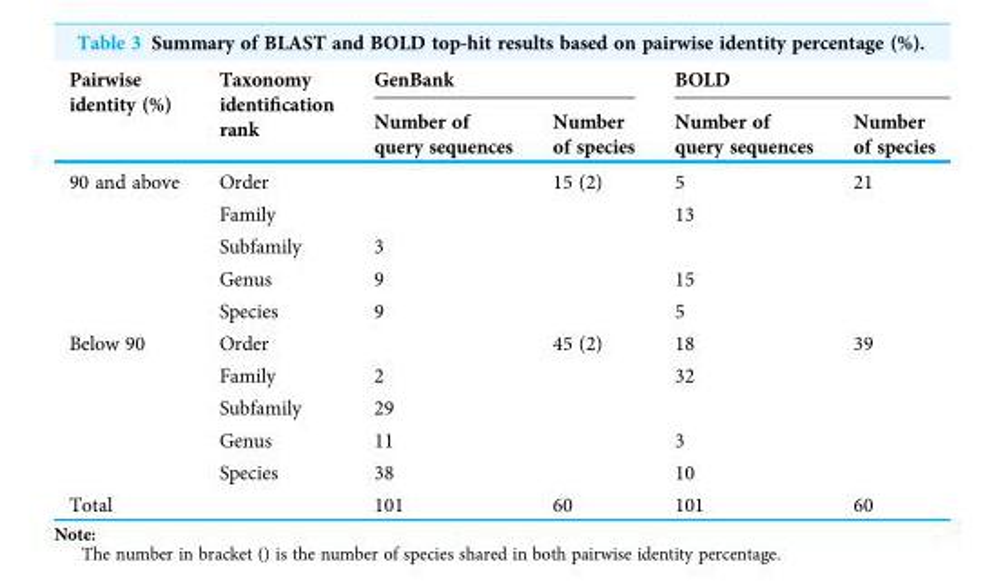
<table><thead><tr><td rowspan="2">Pairwise identity (%)</td><td rowspan="2">Taxonomy identification rank</td><td colspan="2">GenBank</td><td colspan="2">BOLD</td></tr><tr><td>Number of query sequences</td><td>Number of species</td><td>Number of query sequences</td><td>Number of species</td></tr></thead><tbody><tr><td rowspan="5">90 and above</td><td>Order</td><td></td><td rowspan="5">15 (2)</td><td>5</td><td rowspan="5">21</td></tr><tr><td>Family</td><td></td><td>13</td></tr><tr><td>Subfamily</td><td>3</td><td></td></tr><tr><td>Genus</td><td>9</td><td>15</td></tr><tr><td>Species</td><td>9</td><td>5</td></tr><tr><td rowspan="5">Below 90</td><td>Order</td><td></td><td rowspan="5">45 (2)</td><td>18</td><td rowspan="5">39</td></tr><tr><td>Family</td><td>2</td><td>32</td></tr><tr><td>Subfamily</td><td>29</td><td></td></tr><tr><td>Genus</td><td>11</td><td>3</td></tr><tr><td>Species</td><td>38</td><td>10</td></tr><tr><td colspan="2">Total</td><td>101</td><td>60</td><td>101</td><td>60</td></tr></tbody></table>